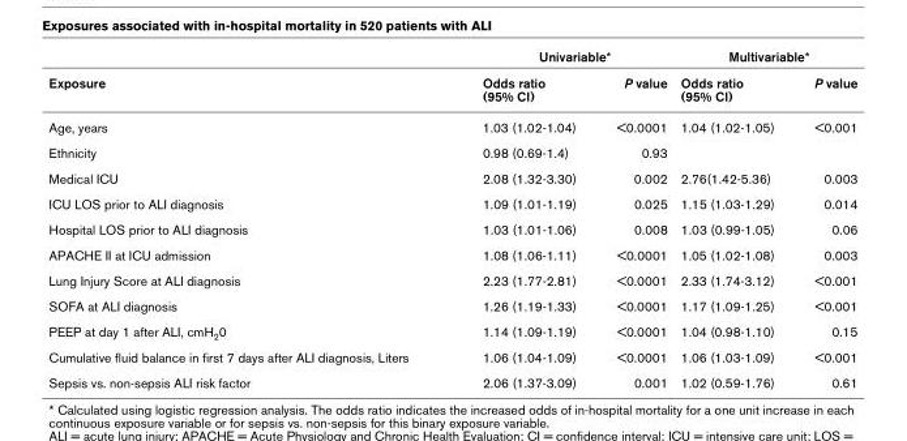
<table><thead><tr><td rowspan="2">Exposure</td><td colspan="2">Univariable*</td><td colspan="2">Multivariable*</td></tr><tr><td>Odds ratio (95% CI)</td><td>P value</td><td>Odds ratio (95% CI)</td><td>P value</td></tr></thead><tbody><tr><td>Age, years</td><td>1.03 (1.02-1.04)</td><td>&lt;0.0001</td><td>1.04 (1.02-1.05)</td><td>&lt;0.001</td></tr><tr><td>Ethnicity</td><td>0.98 (0.69-1.4)</td><td>0.93</td><td></td><td></td></tr><tr><td>Medical ICU</td><td>2.08 (1.32-3.30)</td><td>0.002</td><td>2.76(1.42-5.36)</td><td>0.003</td></tr><tr><td>ICU LOS prior to ALI diagnosis</td><td>1.09 (1.01-1.19)</td><td>0.025</td><td>1.15 (1.03-1.29)</td><td>0.014</td></tr><tr><td>Hospital LOS prior to ALI diagnosis</td><td>1.03 (1.01-1.06)</td><td>0.008</td><td>1.03 (0.99-1.05)</td><td>0.06</td></tr><tr><td>APACHE II at ICU admission</td><td>1.08 (1.06-1.11)</td><td>&lt;0.0001</td><td>1.05 (1.02-1.08)</td><td>0.003</td></tr><tr><td>Lung Injury Score at ALI diagnosis</td><td>2.23 (1.77-2.81)</td><td>&lt;0.0001</td><td>2.33 (1.74-3.12)</td><td>&lt;0.001</td></tr><tr><td>SOFA at ALI diagnosis</td><td>1.26 (1.19-1.33)</td><td>&lt;0.0001</td><td>1.17 (1.09-1.25)</td><td>&lt;0.001</td></tr><tr><td>PEEP at day 1 after ALI, cmH<sub>2</sub>0</td><td>1.14 (1.09-1.19)</td><td>&lt;0.0001</td><td>1.04 (0.98-1.10)</td><td>0.15</td></tr><tr><td>Cumulative fluid balance in first 7 days after ALI diagnosis, Liters</td><td>1.06 (1.04-1.09)</td><td>&lt;0.0001</td><td>1.06 (1.03-1.09)</td><td>&lt;0.001</td></tr><tr><td>Sepsis vs. non-sepsis ALI risk factor</td><td>2.06 (1.37-3.09)</td><td>0.001</td><td>1.02 (0.59-1.76)</td><td>0.61</td></tr></tbody></table>